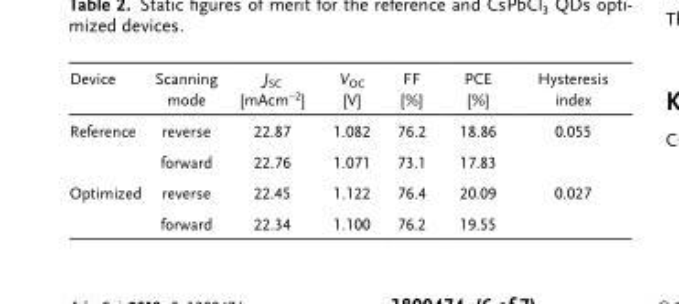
<table><thead><tr><td>Device</td><td>Scanning mode</td><td>J<sub>SC</sub> [mAcm<sup>−2</sup>]</td><td>V<sub>OC</sub> [V]</td><td>FF [%]</td><td>PCE [%]</td><td>Hysteresis index</td></tr></thead><tbody><tr><td rowspan="2">Reference</td><td>reverse</td><td>22.87</td><td>1.082</td><td>76.2</td><td>18.86</td><td>0.055</td></tr><tr><td>forward</td><td>22.76</td><td>1.071</td><td>73.1</td><td>17.83</td><td></td></tr><tr><td rowspan="2">Optimized</td><td>reverse</td><td>22.45</td><td>1.122</td><td>76.4</td><td>20.09</td><td>0.027</td></tr><tr><td>forward</td><td>22.34</td><td>1.100</td><td>76.2</td><td>19.55</td><td></td></tr></tbody></table>